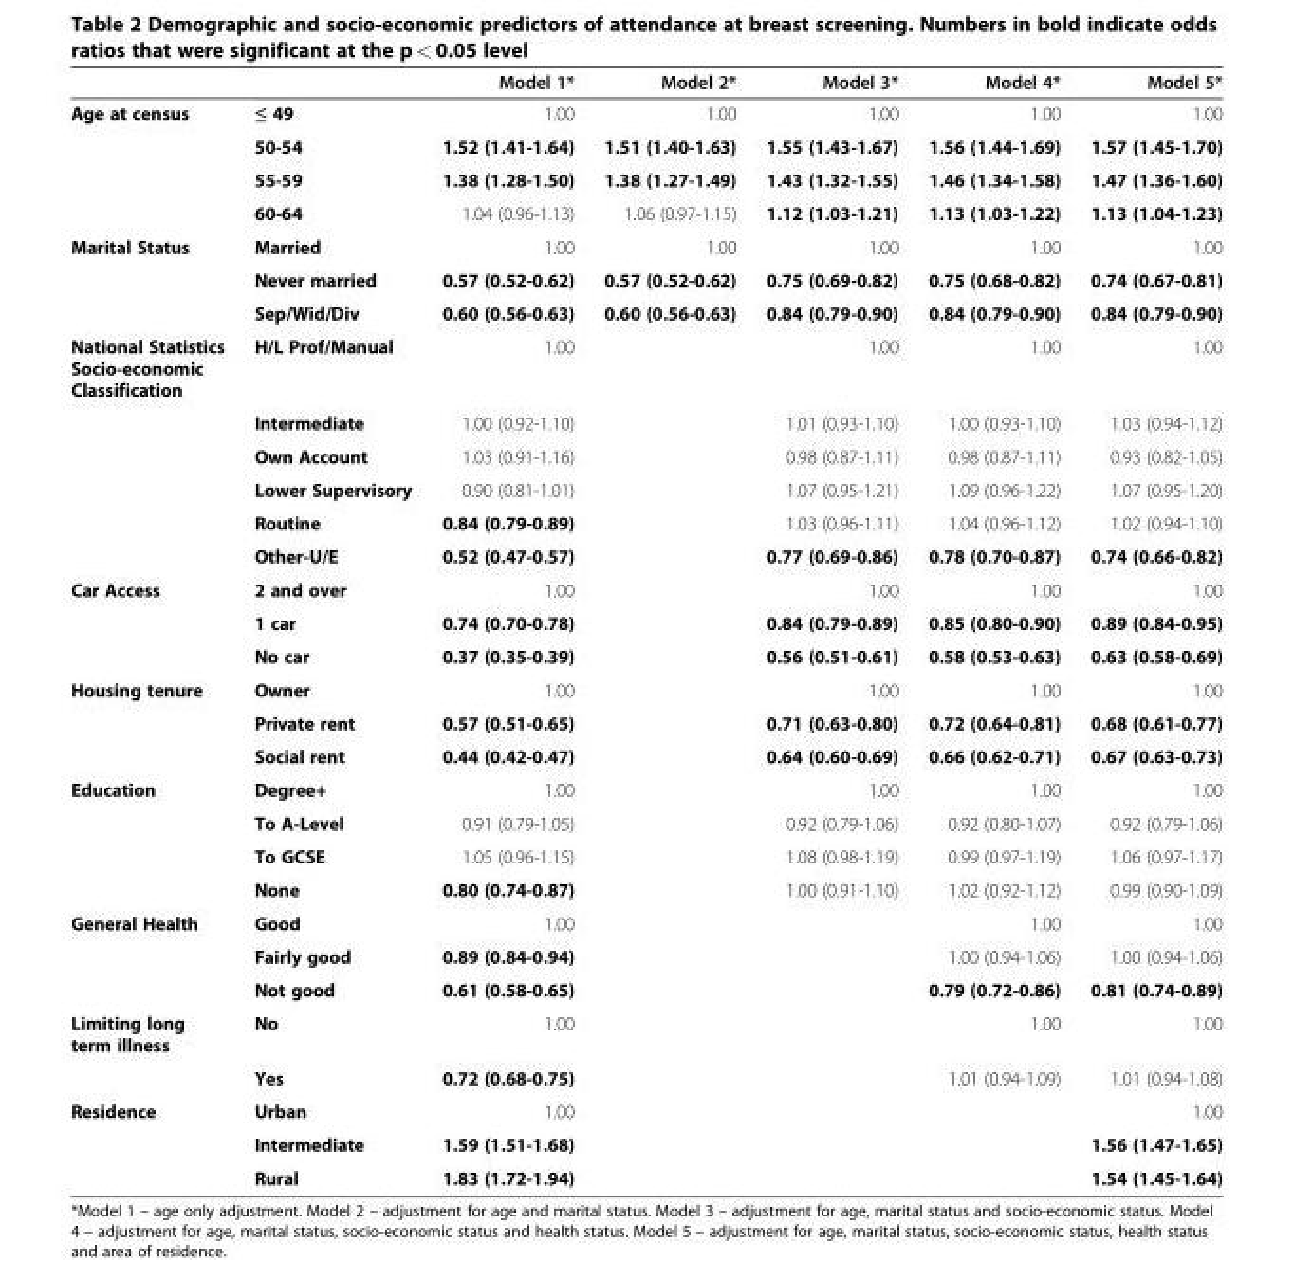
<table><thead><tr><td></td><td></td><td>Model 1*</td><td>Model 2*</td><td>Model 3*</td><td>Model 4*</td><td>Model 5*</td></tr></thead><tbody><tr><td rowspan="4">Age at census</td><td>≤ 49</td><td>1.00</td><td>1.00</td><td>1.00</td><td>1.00</td><td>1.00</td></tr><tr><td>50-54</td><td>1.52 (1.41-1.64)</td><td>1.51 (1.40-1.63)</td><td>1.55 (1.43-1.67)</td><td>1.56 (1.44-1.69)</td><td>1.57 (1.45-1.70)</td></tr><tr><td>55-59</td><td>1.38 (1.28-1.50)</td><td>1.38 (1.27-1.49)</td><td>1.43 (1.32-1.55)</td><td>1.46 (1.34-1.58)</td><td>1.47 (1.36-1.60)</td></tr><tr><td>60-64</td><td>1.04 (0.96-1.13)</td><td>1.06 (0.97-1.15)</td><td>1.12 (1.03-1.21)</td><td>1.13 (1.03-1.22)</td><td>1.13 (1.04-1.23)</td></tr><tr><td rowspan="3">Marital Status</td><td>Married</td><td>1.00</td><td>1.00</td><td>1.00</td><td>1.00</td><td>1.00</td></tr><tr><td>Never married</td><td>0.57 (0.52-0.62)</td><td>0.57 (0.52-0.62)</td><td>0.75 (0.69-0.82)</td><td>0.75 (0.68-0.82)</td><td>0.74 (0.67-0.81)</td></tr><tr><td>Sep/Wid/Div</td><td>0.60 (0.56-0.63)</td><td>0.60 (0.56-0.63)</td><td>0.84 (0.79-0.90)</td><td>0.84 (0.79-0.90)</td><td>0.84 (0.79-0.90)</td></tr><tr><td rowspan="6">National Statistics Socio-economic Classification</td><td>H/L Prof/Manual</td><td>1.00</td><td></td><td>1.00</td><td>1.00</td><td>1.00</td></tr><tr><td>Intermediate</td><td>1.00 (0.92-1.10)</td><td></td><td>1.01 (0.93-1.10)</td><td>1.00 (0.93-1.10)</td><td>1.03 (0.94-1.12)</td></tr><tr><td>Own Account</td><td>1.03 (0.91-1.16)</td><td></td><td>0.98 (0.87-1.11)</td><td>0.98 (0.87-1.11)</td><td>0.93 (0.82-1.05)</td></tr><tr><td>Lower Supervisory</td><td>0.90 (0.81-1.01)</td><td></td><td>1.07 (0.95-1.21)</td><td>1.09 (0.96-1.22)</td><td>1.07 (0.95-1.20)</td></tr><tr><td>Routine</td><td>0.84 (0.79-0.89)</td><td></td><td>1.03 (0.96-1.11)</td><td>1.04 (0.96-1.12)</td><td>1.02 (0.94-1.10)</td></tr><tr><td>Other-U/E</td><td>0.52 (0.47-0.57)</td><td></td><td>0.77 (0.69-0.86)</td><td>0.78 (0.70-0.87)</td><td>0.74 (0.66-0.82)</td></tr><tr><td rowspan="3">Car Access</td><td>2 and over</td><td>1.00</td><td></td><td>1.00</td><td>1.00</td><td>1.00</td></tr><tr><td>1 car</td><td>0.74 (0.70-0.78)</td><td></td><td>0.84 (0.79-0.89)</td><td>0.85 (0.80-0.90)</td><td>0.89 (0.84-0.95)</td></tr><tr><td>No car</td><td>0.37 (0.35-0.39)</td><td></td><td>0.56 (0.51-0.61)</td><td>0.58 (0.53-0.63)</td><td>0.63 (0.58-0.69)</td></tr><tr><td rowspan="3">Housing tenure</td><td>Owner</td><td>1.00</td><td></td><td>1.00</td><td>1.00</td><td>1.00</td></tr><tr><td>Private rent</td><td>0.57 (0.51-0.65)</td><td></td><td>0.71 (0.63-0.80)</td><td>0.72 (0.64-0.81)</td><td>0.68 (0.61-0.77)</td></tr><tr><td>Social rent</td><td>0.44 (0.42-0.47)</td><td></td><td>0.64 (0.60-0.69)</td><td>0.66 (0.62-0.71)</td><td>0.67 (0.63-0.73)</td></tr><tr><td rowspan="4">Education</td><td>Degree+</td><td>1.00</td><td></td><td>1.00</td><td>1.00</td><td>1.00</td></tr><tr><td>To A-Level</td><td>0.91 (0.79-1.05)</td><td></td><td>0.92 (0.79-1.06)</td><td>0.92 (0.80-1.07)</td><td>0.92 (0.79-1.06)</td></tr><tr><td>To GCSE</td><td>1.05 (0.96-1.15)</td><td></td><td>1.08 (0.98-1.19)</td><td>0.99 (0.97-1.19)</td><td>1.06 (0.97-1.17)</td></tr><tr><td>None</td><td>0.80 (0.74-0.87)</td><td></td><td>1.00 (0.91-1.10)</td><td>1.02 (0.92-1.12)</td><td>0.99 (0.90-1.09)</td></tr><tr><td rowspan="3">General Health</td><td>Good</td><td>1.00</td><td></td><td></td><td>1.00</td><td>1.00</td></tr><tr><td>Fairly good</td><td>0.89 (0.84-0.94)</td><td></td><td></td><td>1.00 (0.94-1.06)</td><td>1.00 (0.94-1.06)</td></tr><tr><td>Not good</td><td>0.61 (0.58-0.65)</td><td></td><td></td><td>0.79 (0.72-0.86)</td><td>0.81 (0.74-0.89)</td></tr><tr><td rowspan="2">Limiting long term illness</td><td>No</td><td>1.00</td><td></td><td></td><td>1.00</td><td>1.00</td></tr><tr><td>Yes</td><td>0.72 (0.68-0.75)</td><td></td><td></td><td>1.01 (0.94-1.09)</td><td>1.01 (0.94-1.08)</td></tr><tr><td rowspan="3">Residence</td><td>Urban</td><td>1.00</td><td></td><td></td><td></td><td>1.00</td></tr><tr><td>Intermediate</td><td>1.59 (1.51-1.68)</td><td></td><td></td><td></td><td>1.56 (1.47-1.65)</td></tr><tr><td>Rural</td><td>1.83 (1.72-1.94)</td><td></td><td></td><td></td><td>1.54 (1.45-1.64)</td></tr></tbody></table>